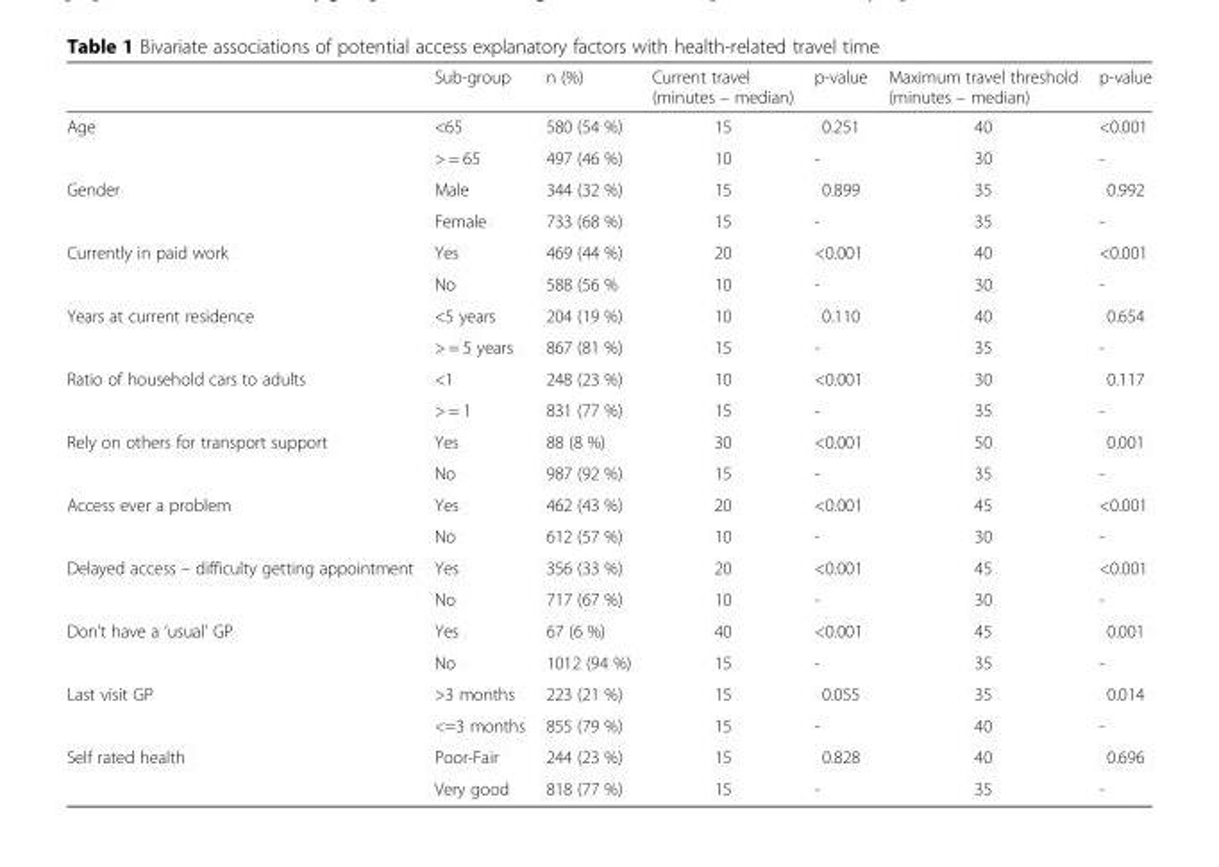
<table><thead><tr><td></td><td>Sub-group</td><td>n (%)</td><td>Current travel (minutes – median)</td><td>p-value</td><td>Maximum travel threshold (minutes – median)</td><td>p-value</td></tr></thead><tbody><tr><td rowspan="2">Age</td><td>&lt;65</td><td>580 (54 %)</td><td>15</td><td>0.251</td><td>40</td><td>&lt;0.001</td></tr><tr><td>&gt; = 65</td><td>497 (46 %)</td><td>10</td><td>-</td><td>30</td><td>-</td></tr><tr><td rowspan="2">Gender</td><td>Male</td><td>344 (32 %)</td><td>15</td><td>0.899</td><td>35</td><td>0.992</td></tr><tr><td>Female</td><td>733 (68 %)</td><td>15</td><td>-</td><td>35</td><td>-</td></tr><tr><td rowspan="2">Currently in paid work</td><td>Yes</td><td>469 (44 %)</td><td>20</td><td>&lt;0.001</td><td>40</td><td>&lt;0.001</td></tr><tr><td>No</td><td>588 (56 %</td><td>10</td><td>-</td><td>30</td><td>-</td></tr><tr><td rowspan="2">Years at current residence</td><td>&lt;5 years</td><td>204 (19 %)</td><td>10</td><td>0.110</td><td>40</td><td>0.654</td></tr><tr><td>&gt; = 5 years</td><td>867 (81 %)</td><td>15</td><td>-</td><td>35</td><td>-</td></tr><tr><td rowspan="2">Ratio of household cars to adults</td><td>&lt;1</td><td>248 (23 %)</td><td>10</td><td>&lt;0.001</td><td>30</td><td>0.117</td></tr><tr><td>&gt; = 1</td><td>831 (77 %)</td><td>15</td><td>-</td><td>35</td><td>-</td></tr><tr><td rowspan="2">Rely on others for transport support</td><td>Yes</td><td>88 (8 %)</td><td>30</td><td>&lt;0.001</td><td>50</td><td>0.001</td></tr><tr><td>No</td><td>987 (92 %)</td><td>15</td><td>-</td><td>35</td><td>-</td></tr><tr><td rowspan="2">Access ever a problem</td><td>Yes</td><td>462 (43 %)</td><td>20</td><td>&lt;0.001</td><td>45</td><td>&lt;0.001</td></tr><tr><td>No</td><td>612 (57 %)</td><td>10</td><td>-</td><td>30</td><td>-</td></tr><tr><td rowspan="2">Delayed access – difficulty getting appointment</td><td>Yes</td><td>356 (33 %)</td><td>20</td><td>&lt;0.001</td><td>45</td><td>&lt;0.001</td></tr><tr><td>No</td><td>717 (67 %)</td><td>10</td><td>-</td><td>30</td><td>-</td></tr><tr><td rowspan="2">Don’t have a ‘usual’ GP</td><td>Yes</td><td>67 (6 %)</td><td>40</td><td>&lt;0.001</td><td>45</td><td>0.001</td></tr><tr><td>No</td><td>1012 (94 %)</td><td>15</td><td>-</td><td>35</td><td>-</td></tr><tr><td rowspan="2">Last visit GP</td><td>&gt;3 months</td><td>223 (21 %)</td><td>15</td><td>0.055</td><td>35</td><td>0.014</td></tr><tr><td>&lt;=3 months</td><td>855 (79 %)</td><td>15</td><td>-</td><td>40</td><td>-</td></tr><tr><td rowspan="2">Self rated health</td><td>Poor-Fair</td><td>244 (23 %)</td><td>15</td><td>0.828</td><td>40</td><td>0.696</td></tr><tr><td>Very good</td><td>818 (77 %)</td><td>15</td><td>-</td><td>35</td><td>-</td></tr></tbody></table>